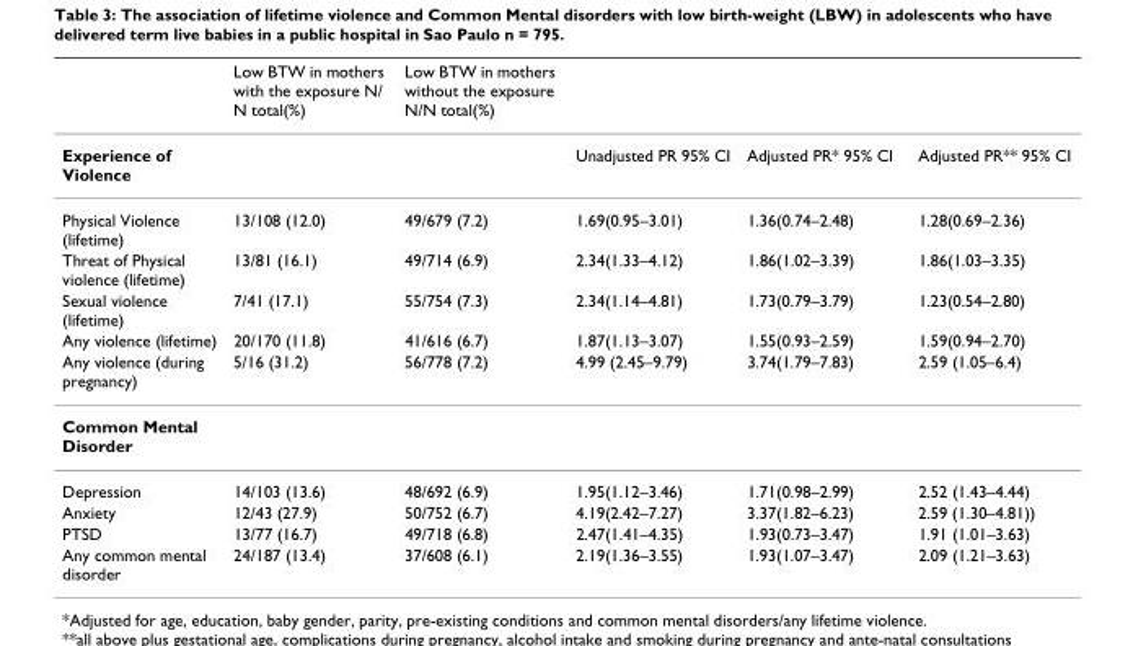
<table><thead><tr><td></td><td>Low BTW in mothers with the exposure N/ N total(%)</td><td>Low BTW in mothers without the exposure N/N total(%)</td><td></td><td></td><td></td></tr></thead><tbody><tr><td>Experience of Violence</td><td></td><td></td><td>Unadjusted PR 95% CI</td><td>Adjusted PR* 95% CI</td><td>Adjusted PR** 95% CI</td></tr><tr><td>Physical Violence (lifetime)</td><td>13/108 (12.0)</td><td>49/679 (7.2)</td><td>1.69(0.95–3.01)</td><td>1.36(0.74–2.48)</td><td>1.28(0.69–2.36)</td></tr><tr><td>Threat of Physical violence (lifetime)</td><td>13/81 (16.1)</td><td>49/714 (6.9)</td><td>2.34(1.33–4.12)</td><td>1.86(1.02–3.39)</td><td>1.86(1.03–3.35)</td></tr><tr><td>Sexual violence (lifetime)</td><td>7/41 (17.1)</td><td>55/754 (7.3)</td><td>2.34(1.14–4.81)</td><td>1.73(0.79–3.79)</td><td>1.23(0.54–2.80)</td></tr><tr><td>Any violence (lifetime)</td><td>20/170 (11.8)</td><td>41/616 (6.7)</td><td>1.87(1.13–3.07)</td><td>1.55(0.93–2.59)</td><td>1.59(0.94–2.70)</td></tr><tr><td>Any violence (during pregnancy)</td><td>5/16 (31.2)</td><td>56/778 (7.2)</td><td>4.99 (2.45–9.79)</td><td>3.74(1.79–7.83)</td><td>2.59 (1.05–6.4)</td></tr><tr><td colspan="6">Common Mental Disorder</td></tr><tr><td>Depression</td><td>14/103 (13.6)</td><td>48/692 (6.9)</td><td>1.95(1.12–3.46)</td><td>1.71(0.98–2.99)</td><td>2.52 (1.43–4.44)</td></tr><tr><td>Anxiety</td><td>12/43 (27.9)</td><td>50/752 (6.7)</td><td>4.19(2.42–7.27)</td><td>3.37(1.82–6.23)</td><td>2.59 (1.30–4.81))</td></tr><tr><td>PTSD</td><td>13/77 (16.7)</td><td>49/718 (6.8)</td><td>2.47(1.41–4.35)</td><td>1.93(0.73–3.47)</td><td>1.91 (1.01–3.63)</td></tr><tr><td>Any common mental disorder</td><td>24/187 (13.4)</td><td>37/608 (6.1)</td><td>2.19(1.36–3.55)</td><td>1.93(1.07–3.47)</td><td>2.09 (1.21–3.63)</td></tr></tbody></table>